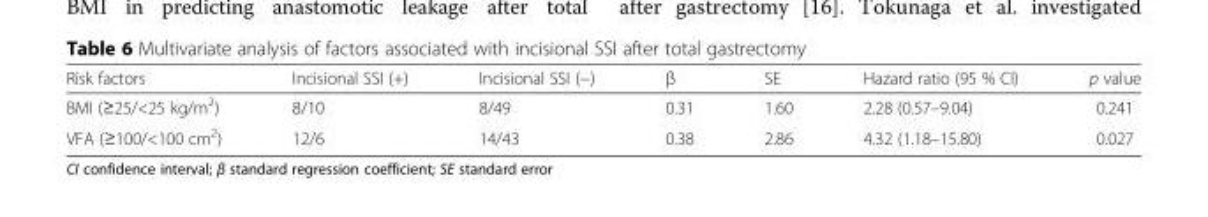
<table><thead><tr><td>Risk factors</td><td>Incisional SSI (+)</td><td>Incisional SSI (−)</td><td>β</td><td>SE</td><td>Hazard ratio (95 % CI)</td><td>p value</td></tr></thead><tbody><tr><td>BMI (≥25/&lt;25 kg/m<sup>2</sup>)</td><td>8/10</td><td>8/49</td><td>0.31</td><td>1.60</td><td>2.28 (0.57–9.04)</td><td>0.241</td></tr><tr><td>VFA (≥100/&lt;100 cm<sup>2</sup>)</td><td>12/6</td><td>14/43</td><td>0.38</td><td>2.86</td><td>4.32 (1.18–15.80)</td><td>0.027</td></tr></tbody></table>